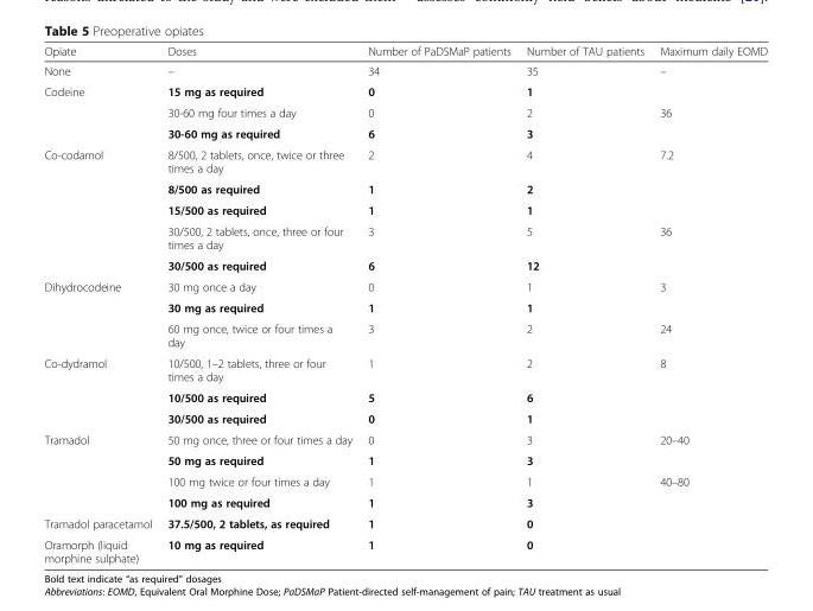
<table><thead><tr><td>Opiate</td><td>Doses</td><td>Number of PaDSMaP patients</td><td>Number of TAU patients</td><td>Maximum daily EOMD</td></tr></thead><tbody><tr><td>None</td><td>–</td><td>34</td><td>35</td><td>–</td></tr><tr><td rowspan="3">Codeine</td><td>15 mg as required</td><td>0</td><td>1</td><td></td></tr><tr><td>30-60 mg four times a day</td><td>0</td><td>2</td><td>36</td></tr><tr><td>30-60 mg as required</td><td>6</td><td>3</td><td></td></tr><tr><td rowspan="5">Co-codamol</td><td>8/500, 2 tablets, once, twice or three times a day</td><td>2</td><td>4</td><td>7.2</td></tr><tr><td>8/500 as required</td><td>1</td><td>2</td><td></td></tr><tr><td>15/500 as required</td><td>1</td><td>1</td><td></td></tr><tr><td>30/500, 2 tablets, once, three or four times a day</td><td>3</td><td>5</td><td>36</td></tr><tr><td>30/500 as required</td><td>6</td><td>12</td><td></td></tr><tr><td rowspan="3">Dihydrocodeine</td><td>30 mg once a day</td><td>0</td><td>1</td><td>3</td></tr><tr><td>30 mg as required</td><td>1</td><td>1</td><td></td></tr><tr><td>60 mg once, twice or four times a day</td><td>3</td><td>2</td><td>24</td></tr><tr><td rowspan="3">Co-dydramol</td><td>10/500, 1–2 tablets, three or four times a day</td><td>1</td><td>2</td><td>8</td></tr><tr><td>10/500 as required</td><td>5</td><td>6</td><td></td></tr><tr><td>30/500 as required</td><td>0</td><td>1</td><td></td></tr><tr><td rowspan="4">Tramadol</td><td>50 mg once, three or four times a day</td><td>0</td><td>3</td><td>20–40</td></tr><tr><td>50 mg as required</td><td>1</td><td>3</td><td></td></tr><tr><td>100 mg twice or four times a day</td><td>1</td><td>1</td><td>40–80</td></tr><tr><td>100 mg as required</td><td>1</td><td>3</td><td></td></tr><tr><td>Tramadol paracetamol</td><td>37.5/500, 2 tablets, as required</td><td>1</td><td>0</td><td></td></tr><tr><td>Oramorph (liquid morphine sulphate)</td><td>10 mg as required</td><td>1</td><td>0</td><td></td></tr></tbody></table>